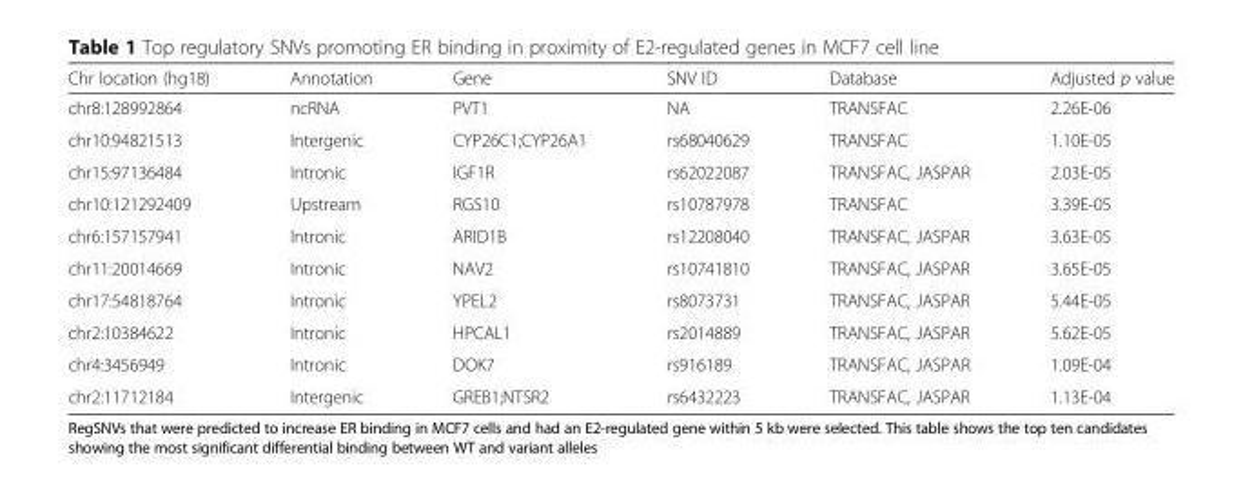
<table><thead><tr><td>Chr location (hg18)</td><td>Annotation</td><td>Gene</td><td>SNV ID</td><td>Database</td><td>Adjusted p value</td></tr></thead><tbody><tr><td>chr8:128992864</td><td>ncRNA</td><td>PVT1</td><td>NA</td><td>TRANSFAC</td><td>2.26E-06</td></tr><tr><td>chr10:94821513</td><td>Intergenic</td><td>CYP26C1;CYP26A1</td><td>rs68040629</td><td>TRANSFAC</td><td>1.10E-05</td></tr><tr><td>chr15:97136484</td><td>Intronic</td><td>IGF1R</td><td>rs62022087</td><td>TRANSFAC, JASPAR</td><td>2.03E-05</td></tr><tr><td>chr10:121292409</td><td>Upstream</td><td>RGS10</td><td>rs10787978</td><td>TRANSFAC</td><td>3.39E-05</td></tr><tr><td>chr6:157157941</td><td>Intronic</td><td>ARID1B</td><td>rs12208040</td><td>TRANSFAC, JASPAR</td><td>3.63E-05</td></tr><tr><td>chr11:20014669</td><td>Intronic</td><td>NAV2</td><td>rs10741810</td><td>TRANSFAC, JASPAR</td><td>3.65E-05</td></tr><tr><td>chr17:54818764</td><td>Intronic</td><td>YPEL2</td><td>rs8073731</td><td>TRANSFAC, JASPAR</td><td>5.44E-05</td></tr><tr><td>chr2:10384622</td><td>Intronic</td><td>HPCAL1</td><td>rs2014889</td><td>TRANSFAC, JASPAR</td><td>5.62E-05</td></tr><tr><td>chr4:3456949</td><td>Intronic</td><td>DOK7</td><td>rs916189</td><td>TRANSFAC, JASPAR</td><td>1.09E-04</td></tr><tr><td>chr2:11712184</td><td>Intergenic</td><td>GREB1;NTSR2</td><td>rs6432223</td><td>TRANSFAC, JASPAR</td><td>1.13E-04</td></tr></tbody></table>